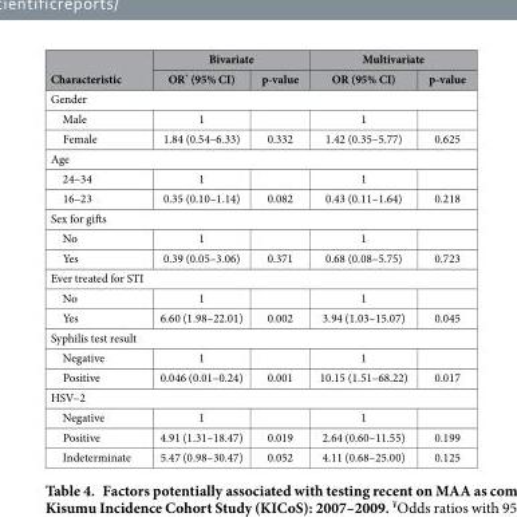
<table><thead><tr><td rowspan="2">Characteristic</td><td colspan="2">Bivariate</td><td colspan="2">Multivariate</td></tr><tr><td>OR* (95% CI)</td><td>p-value</td><td>OR (95% CI)</td><td>p-value</td></tr></thead><tbody><tr><td colspan="5">Gender</td></tr><tr><td>Male</td><td>1</td><td></td><td>1</td><td></td></tr><tr><td>Female</td><td>1.84 (0.54–6.33)</td><td>0.332</td><td>1.42 (0.35–5.77)</td><td>0.625</td></tr><tr><td colspan="5">Age</td></tr><tr><td>24–34</td><td>1</td><td></td><td>1</td><td></td></tr><tr><td>16–23</td><td>0.35 (0.10–1.14)</td><td>0.082</td><td>0.43 (0.11–1.64)</td><td>0.218</td></tr><tr><td colspan="5">Sex for gifts</td></tr><tr><td>No</td><td>1</td><td></td><td>1</td><td></td></tr><tr><td>Yes</td><td>0.39 (0.05–3.06)</td><td>0.371</td><td>0.68 (0.08–5.75)</td><td>0.723</td></tr><tr><td colspan="5">Ever treated for STI</td></tr><tr><td>No</td><td>1</td><td></td><td>1</td><td></td></tr><tr><td>Yes</td><td>6.60 (1.98–22.01)</td><td>0.002</td><td>3.94 (1.03–15.07)</td><td>0.045</td></tr><tr><td colspan="5">Syphilis test result</td></tr><tr><td>Negative</td><td>1</td><td></td><td>1</td><td></td></tr><tr><td>Positive</td><td>0.046 (0.01–0.24)</td><td>0.001</td><td>10.15 (1.51–68.22)</td><td>0.017</td></tr><tr><td colspan="5">HSV–2</td></tr><tr><td>Negative</td><td>1</td><td></td><td>1</td><td></td></tr><tr><td>Positive</td><td>4.91 (1.31–18.47)</td><td>0.019</td><td>2.64 (0.60–11.55)</td><td>0.199</td></tr><tr><td>Indeterminate</td><td>5.47 (0.98–30.47)</td><td>0.052</td><td>4.11 (0.68–25.00)</td><td>0.125</td></tr></tbody></table>